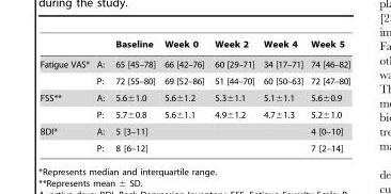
<table><thead><tr><td></td><td></td><td>Baseline</td><td>Week 0</td><td>Week 2</td><td>Week 4</td><td>Week 5</td></tr></thead><tbody><tr><td rowspan="2">Fatigue VAS*</td><td>A:</td><td>65 [45–78]</td><td>66 [42–76]</td><td>60 [29–71]</td><td>34 [17–71]</td><td>74 [46–82]</td></tr><tr><td>P:</td><td>72 [55–80]</td><td>69 [52–86]</td><td>51 [44–70]</td><td>60 [50–63]</td><td>72 [47–80]</td></tr><tr><td rowspan="2">FSS**</td><td>A:</td><td>5.6±1.0</td><td>5.6±1.2</td><td>5.3±1.1</td><td>5.1±1.1</td><td>5.6±0.9</td></tr><tr><td>P:</td><td>5.7±0.8</td><td>5.6±1.1</td><td>4.9±1.2</td><td>4.7±1.3</td><td>5.2±1.0</td></tr><tr><td rowspan="2">BDI*</td><td>A:</td><td>5 [3–11]</td><td></td><td></td><td></td><td>4 [0–10]</td></tr><tr><td>P:</td><td>8 [6–12]</td><td></td><td></td><td></td><td>7 [2–14]</td></tr></tbody></table>